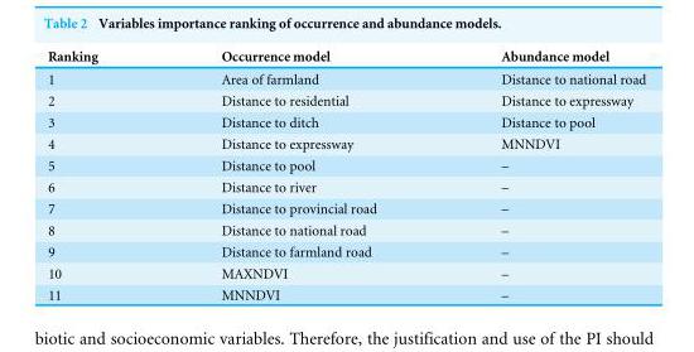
<table><thead><tr><td>Ranking</td><td>Occurrence model</td><td>Abundance model</td></tr></thead><tbody><tr><td>1</td><td>Area of farmland</td><td>Distance to national road</td></tr><tr><td>2</td><td>Distance to residential</td><td>Distance to expressway</td></tr><tr><td>3</td><td>Distance to ditch</td><td>Distance to pool</td></tr><tr><td>4</td><td>Distance to expressway</td><td>MNNDVI</td></tr><tr><td>5</td><td>Distance to pool</td><td>–</td></tr><tr><td>6</td><td>Distance to river</td><td>–</td></tr><tr><td>7</td><td>Distance to provincial road</td><td>–</td></tr><tr><td>8</td><td>Distance to national road</td><td>–</td></tr><tr><td>9</td><td>Distance to farmland road</td><td>–</td></tr><tr><td>10</td><td>MAXNDVI</td><td>–</td></tr><tr><td>11</td><td>MNNDVI</td><td>–</td></tr></tbody></table>